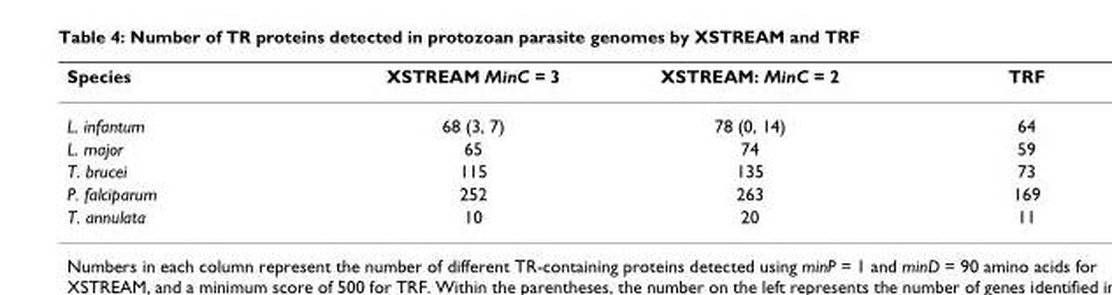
<table><thead><tr><td>Species</td><td>XSTREAM MinC = 3</td><td>XSTREAM: MinC = 2</td><td>TRF</td></tr></thead><tbody><tr><td>L. infantum</td><td>68 (3, 7)</td><td>78 (0, 14)</td><td>64</td></tr><tr><td>L. major</td><td>65</td><td>74</td><td>59</td></tr><tr><td>T. brucei</td><td>115</td><td>135</td><td>73</td></tr><tr><td>P. falciparum</td><td>252</td><td>263</td><td>169</td></tr><tr><td>T. annulata</td><td>10</td><td>20</td><td>11</td></tr></tbody></table>